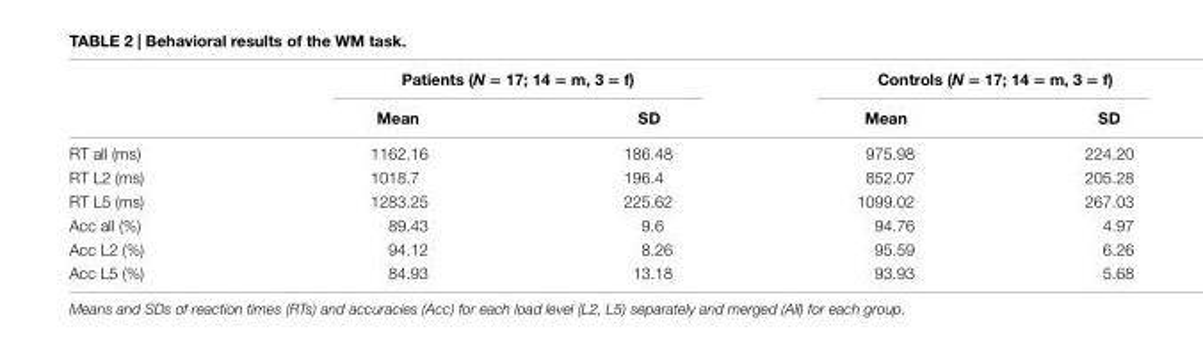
<table><thead><tr><td rowspan="2"></td><td colspan="2">Patients (N = 17; 14 = m, 3 = f)</td><td colspan="2">controls (N = 17; 14 = m, 3 = f)</td></tr><tr><td>Mean</td><td>sD</td><td>Mean</td><td>sD</td></tr></thead><tbody><tr><td>RT all (ms)</td><td>1162.16</td><td>186.48</td><td>975.98</td><td>224.20</td></tr><tr><td>RT L2 (ms)</td><td>1018.7</td><td>196.4</td><td>852.07</td><td>205.28</td></tr><tr><td>RT L5 (ms)</td><td>1283.25</td><td>225.62</td><td>1099.02</td><td>267.03</td></tr><tr><td>Acc all (%)</td><td>89.43</td><td>9.6</td><td>94.76</td><td>4.97</td></tr><tr><td>Acc L2 (%)</td><td>94.12</td><td>8.26</td><td>95.59</td><td>6.26</td></tr><tr><td>Acc L5 (%)</td><td>84.93</td><td>13.18</td><td>93.93</td><td>5.68</td></tr></tbody></table>